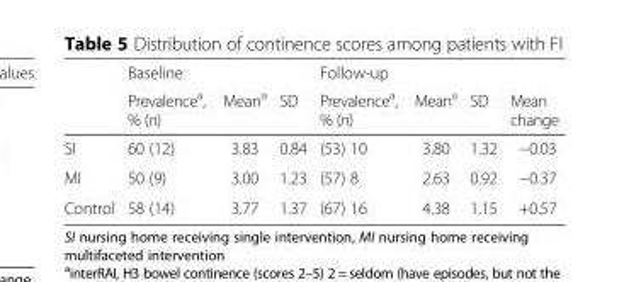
<table><thead><tr><td rowspan="2"></td><td colspan="3">Baseline</td><td colspan="4">Follow-up</td></tr><tr><td>Prevalence<sup>a</sup>, % (n)</td><td>Mean<sup>a</sup></td><td>SD</td><td>Prevalence<sup>a</sup>, % (n)</td><td>Mean<sup>a</sup></td><td>SD</td><td>Mean change</td></tr></thead><tbody><tr><td>SI</td><td>60 (12)</td><td>3.83</td><td>0.84</td><td>(53) 10</td><td>3.80</td><td>1.32</td><td>−0.03</td></tr><tr><td>MI</td><td>50 (9)</td><td>3.00</td><td>1.23</td><td>(57) 8</td><td>2.63</td><td>0.92</td><td>−0.37</td></tr><tr><td>Control</td><td>58 (14)</td><td>3.77</td><td>1.37</td><td>(67) 16</td><td>4.38</td><td>1.15</td><td>+0.57</td></tr></tbody></table>